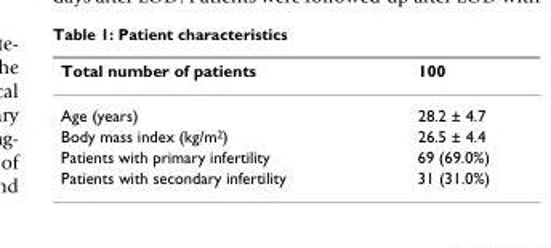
<table><thead><tr><td>Total number of patients</td><td>100</td></tr></thead><tbody><tr><td>Age (years)</td><td>28.2 ± 4.7</td></tr><tr><td>Body mass index (kg/m<sup>2</sup>)</td><td>26.5 ± 4.4</td></tr><tr><td>Patients with primary infertility</td><td>69 (69.0%)</td></tr><tr><td>Patients with secondary infertility</td><td>31 (31.0%)</td></tr></tbody></table>